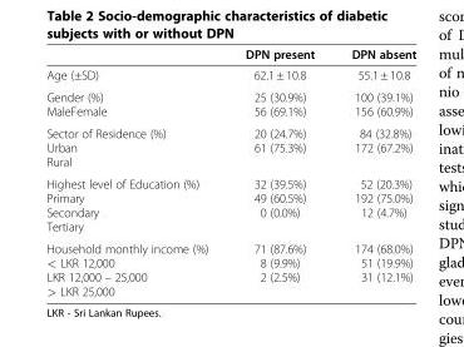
<table><thead><tr><td></td><td>DPN present</td><td>DPN absent</td></tr></thead><tbody><tr><td>Age (±SD)</td><td>62.1 ± 10.8</td><td>55.1 ± 10.8</td></tr><tr><td>Gender (%) MaleFemale</td><td>25 (30.9%) 56 (69.1%)</td><td>100 (39.1%) 156 (60.9%)</td></tr><tr><td>Sector of Residence (%) Urban Rural</td><td>20 (24.7%) 61 (75.3%)</td><td>84 (32.8%) 172 (67.2%)</td></tr><tr><td>Highest level of Education (%) Primary Secondary Tertiary</td><td>32 (39.5%) 49 (60.5%) 0 (0.0%)</td><td>52 (20.3%) 192 (75.0%) 12 (4.7%)</td></tr><tr><td>Household monthly income (%) &lt; LKR 12,000 LKR 12,000 – 25,000 &gt; LKR 25,000</td><td>71 (87.6%) 8 (9.9%) 2 (2.5%)</td><td>174 (68.0%) 51 (19.9%) 31 (12.1%)</td></tr></tbody></table>